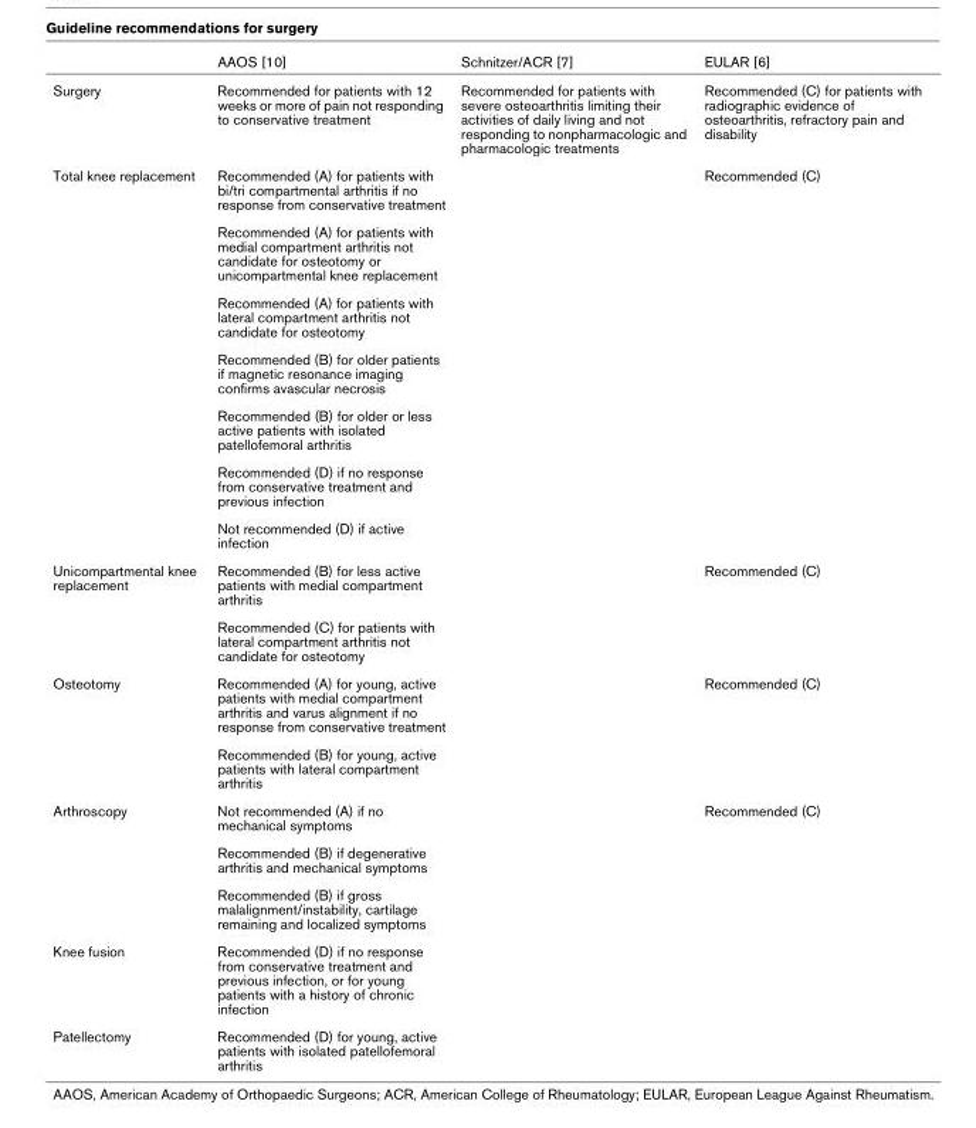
<table><thead><tr><td></td><td>AAOS [10]</td><td>Schnitzer/ACR [7]</td><td>EULAR [6]</td></tr></thead><tbody><tr><td>Surgery</td><td>Recommended for patients with 12 weeks or more of pain not responding to conservative treatment</td><td>Recommended for patients with severe osteoarthritis limiting their activities of daily living and not responding to nonpharmacologic and pharmacologic treatments</td><td>Recommended (C) for patients with radiographic evidence of osteoarthritis, refractory pain and disability</td></tr><tr><td rowspan="7">Total knee replacement</td><td>Recommended (A) for patients with bi/tri compartmental arthritis if no response from conservative treatment</td><td></td><td>Recommended (C)</td></tr><tr><td>Recommended (A) for patients with medial compartment arthritis not candidate for osteotomy or unicompartmental knee replacement</td><td></td><td></td></tr><tr><td>Recommended (A) for patients with lateral compartment arthritis not candidate for osteotomy</td><td></td><td></td></tr><tr><td>Recommended (B) for older patients if magnetic resonance imaging confirms avascular necrosis</td><td></td><td></td></tr><tr><td>Recommended (B) for older or less active patients with isolated patellofemoral arthritis</td><td></td><td></td></tr><tr><td>Recommended (D) if no response from conservative treatment and previous infection</td><td></td><td></td></tr><tr><td>Not recommended (D) if active infection</td><td></td><td></td></tr><tr><td rowspan="2">Unicompartmental knee replacement</td><td>Recommended (B) for less active patients with medial compartment arthritis</td><td></td><td>Recommended (C)</td></tr><tr><td>Recommended (C) for patients with lateral compartment arthritis not candidate for osteotomy</td><td></td><td></td></tr><tr><td rowspan="2">Osteotomy</td><td>Recommended (A) for young, active patients with medial compartment arthritis and varus alignment if no response from conservative treatment</td><td></td><td>Recommended (C)</td></tr><tr><td>Recommended (B) for young, active patients with lateral compartment arthritis</td><td></td><td></td></tr><tr><td rowspan="3">Arthroscopy</td><td>Not recommended (A) if no mechanical symptoms</td><td></td><td>Recommended (C)</td></tr><tr><td>Recommended (B) if degenerative arthritis and mechanical symptoms</td><td></td><td></td></tr><tr><td>Recommended (B) if gross malalignment/instability, cartilage remaining and localized symptoms</td><td></td><td></td></tr><tr><td>Knee fusion</td><td>Recommended (D) if no response from conservative treatment and previous infection, or for young patients with a history of chronic infection</td><td></td><td></td></tr><tr><td>Patellectomy</td><td>Recommended (D) for young, active patients with isolated patellofemoral arthritis</td><td></td><td></td></tr></tbody></table>